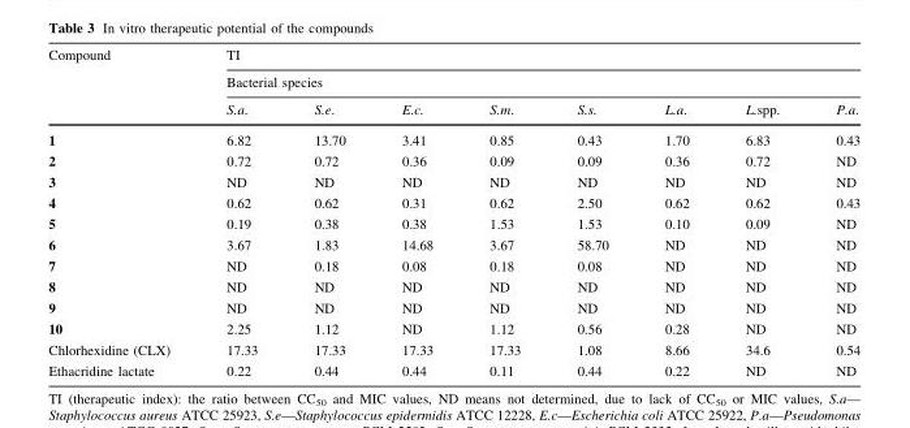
<table><thead><tr><td rowspan="3">Compound</td><td rowspan="2" colspan="8">TI Bacterial species</td></tr><tr></tr><tr><td>S.a.</td><td>S.e.</td><td>E.c.</td><td>S.m.</td><td>S.s.</td><td>L.a.</td><td>L.spp.</td><td>P.a.</td></tr></thead><tbody><tr><td>1</td><td>6.82</td><td>13.70</td><td>3.41</td><td>0.85</td><td>0.43</td><td>1.70</td><td>6.83</td><td>0.43</td></tr><tr><td>2</td><td>0.72</td><td>0.72</td><td>0.36</td><td>0.09</td><td>0.09</td><td>0.36</td><td>0.72</td><td>ND</td></tr><tr><td>3</td><td>ND</td><td>ND</td><td>ND</td><td>ND</td><td>ND</td><td>ND</td><td>ND</td><td>ND</td></tr><tr><td>4</td><td>0.62</td><td>0.62</td><td>0.31</td><td>0.62</td><td>2.50</td><td>0.62</td><td>0.62</td><td>0.43</td></tr><tr><td>5</td><td>0.19</td><td>0.38</td><td>0.38</td><td>1.53</td><td>1.53</td><td>0.10</td><td>0.09</td><td>ND</td></tr><tr><td>6</td><td>3.67</td><td>1.83</td><td>14.68</td><td>3.67</td><td>58.70</td><td>ND</td><td>ND</td><td>ND</td></tr><tr><td>7</td><td>ND</td><td>0.18</td><td>0.08</td><td>0.18</td><td>0.08</td><td>ND</td><td>ND</td><td>ND</td></tr><tr><td>8</td><td>ND</td><td>ND</td><td>ND</td><td>ND</td><td>ND</td><td>ND</td><td>ND</td><td>ND</td></tr><tr><td>9</td><td>ND</td><td>ND</td><td>ND</td><td>ND</td><td>ND</td><td>ND</td><td>ND</td><td>ND</td></tr><tr><td>10</td><td>2.25</td><td>1.12</td><td>ND</td><td>1.12</td><td>0.56</td><td>0.28</td><td>ND</td><td>ND</td></tr><tr><td>Chlorhexidine (CLX)</td><td>17.33</td><td>17.33</td><td>17.33</td><td>17.33</td><td>1.08</td><td>8.66</td><td>34.6</td><td>0.54</td></tr><tr><td>Ethacridine lactate</td><td>0.22</td><td>0.44</td><td>0.44</td><td>0.11</td><td>0.44</td><td>0.22</td><td>ND</td><td>ND</td></tr></tbody></table>